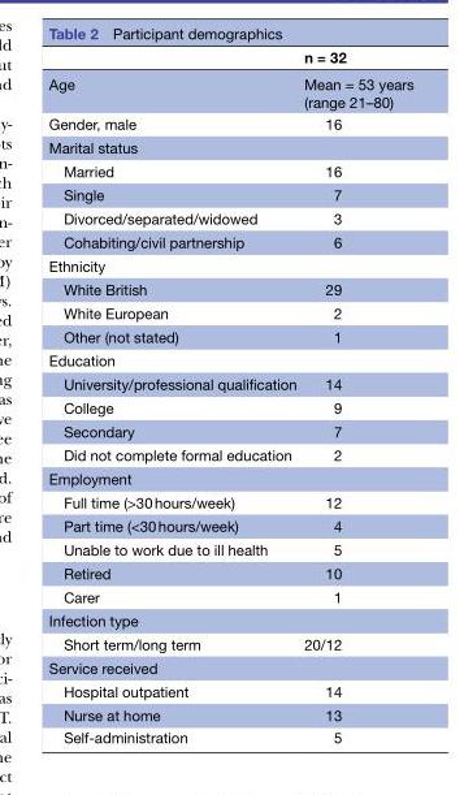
<table><thead><tr><td></td><td>n = 32</td></tr></thead><tbody><tr><td>Age</td><td>Mean = 53 years (range 21–80)</td></tr><tr><td>Gender, male</td><td>16</td></tr><tr><td colspan="2">Marital status</td></tr><tr><td>Married</td><td>16</td></tr><tr><td>Single</td><td>7</td></tr><tr><td>Divorced/separated/widowed</td><td>3</td></tr><tr><td>Cohabiting/civil partnership</td><td>6</td></tr><tr><td colspan="2">Ethnicity</td></tr><tr><td>White British</td><td>29</td></tr><tr><td>White European</td><td>2</td></tr><tr><td>Other (not stated)</td><td>1</td></tr><tr><td colspan="2">Education</td></tr><tr><td>University/professional qualification</td><td>14</td></tr><tr><td>College</td><td>9</td></tr><tr><td>Secondary</td><td>7</td></tr><tr><td>Did not complete formal education</td><td>2</td></tr><tr><td colspan="2">Employment</td></tr><tr><td>Full time (&gt;30 hours/week)</td><td>12</td></tr><tr><td>Part time (&lt;30 hours/week)</td><td>4</td></tr><tr><td>Unable to work due to ill health</td><td>5</td></tr><tr><td>Retired</td><td>10</td></tr><tr><td>Carer</td><td>1</td></tr><tr><td colspan="2">Infection type</td></tr><tr><td>Short term/long term</td><td>20/12</td></tr><tr><td colspan="2">Service received</td></tr><tr><td>Hospital outpatient</td><td>14</td></tr><tr><td>Nurse at home</td><td>13</td></tr><tr><td>Self-administration</td><td>5</td></tr></tbody></table>